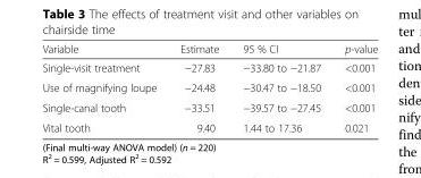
<table><thead><tr><td>Variable</td><td>Estimate</td><td>95 % CI</td><td>p-value</td></tr></thead><tbody><tr><td>Single-visit treatment</td><td>−27.83</td><td>−33.80 to −21.87</td><td>&lt;0.001</td></tr><tr><td>Use of magnifying loupe</td><td>−24.48</td><td>−30.47 to −18.50</td><td>&lt;0.001</td></tr><tr><td>Single-canal tooth</td><td>−33.51</td><td>−39.57 to −27.45</td><td>&lt;0.001</td></tr><tr><td>Vital tooth</td><td>9.40</td><td>1.44 to 17.36</td><td>0.021</td></tr></tbody></table>